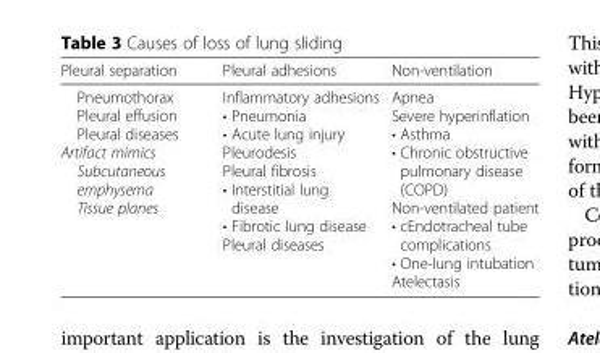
<table><thead><tr><td>Pleural separation</td><td>Pleural adhesions</td><td>Non-ventilation</td></tr></thead><tbody><tr><td>Pneumothorax Pleural effusion Pleural diseases Artifact mimics Subcutaneous emphysema Tissue planes</td><td>Inflammatory adhesions • Pneumonia • Acute lung injury Pleurodesis Pleural fibrosis • Interstitial lung disease • Fibrotic lung disease Pleural diseases</td><td>Apnea Severe hyperinflation • Asthma • Chronic obstructive pulmonary disease (COPD) Non-ventilated patient • cEndotracheal tube complications • One-lung intubation Atelectasis</td></tr></tbody></table>